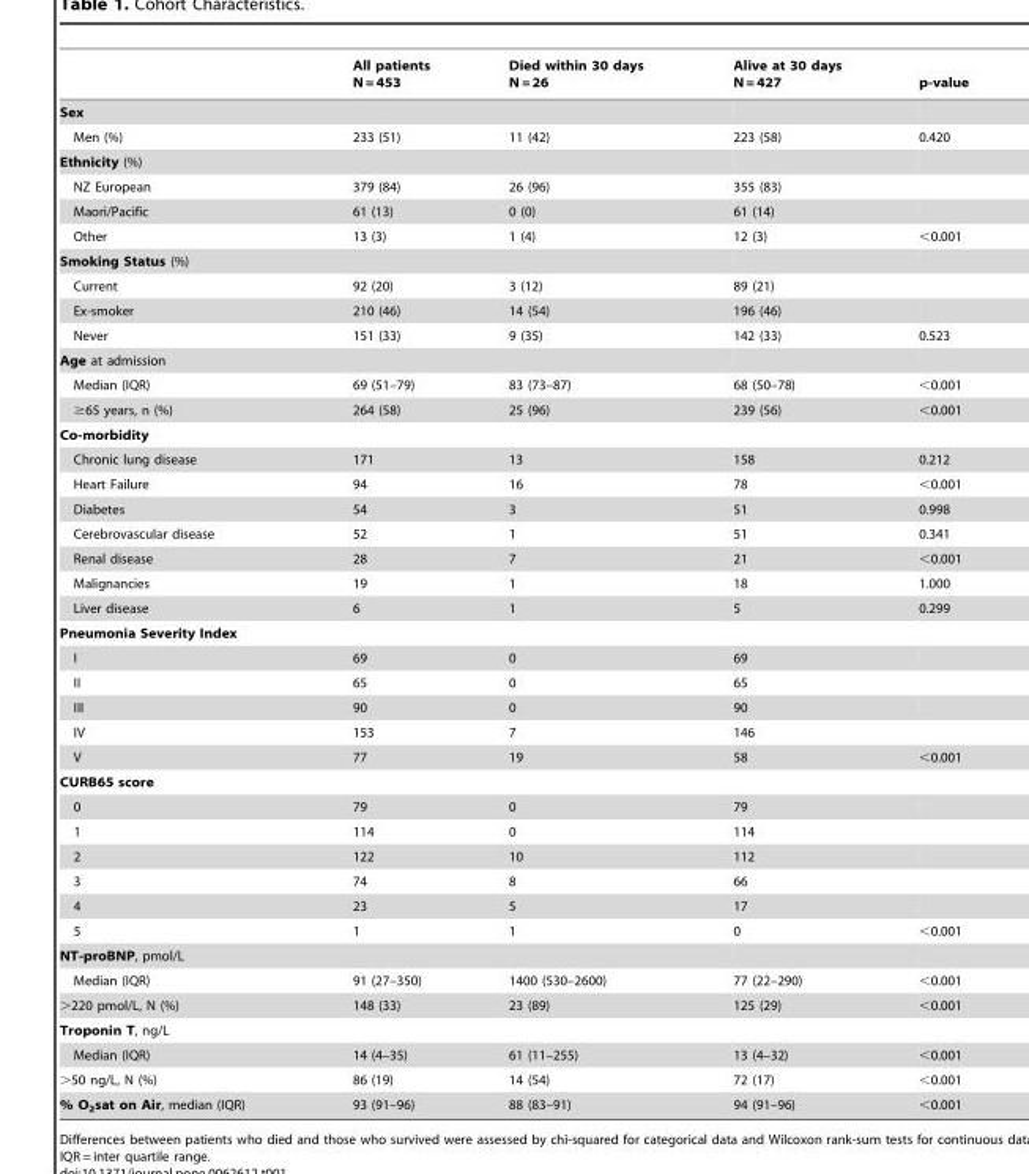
<table><thead><tr><td></td><td>All patients N = 453</td><td>Died within 30 days N = 26</td><td>Alive at 30 days N = 427</td><td>p-value</td></tr></thead><tbody><tr><td colspan="5">Sex</td></tr><tr><td>Men (%)</td><td>233 (51)</td><td>11 (42)</td><td>223 (58)</td><td>0.420</td></tr><tr><td colspan="5">Ethnicity (%)</td></tr><tr><td>NZ European</td><td>379 (84)</td><td>26 (96)</td><td>355 (83)</td><td></td></tr><tr><td>Maori/Pacific</td><td>61 (13)</td><td>0 (0)</td><td>61 (14)</td><td></td></tr><tr><td>Other</td><td>13 (3)</td><td>1 (4)</td><td>12 (3)</td><td>&lt;0.001</td></tr><tr><td colspan="5">Smoking Status (%)</td></tr><tr><td>Current</td><td>92 (20)</td><td>3 (12)</td><td>89 (21)</td><td></td></tr><tr><td>Ex-smoker</td><td>210 (46)</td><td>14 (54)</td><td>196 (46)</td><td></td></tr><tr><td>Never</td><td>151 (33)</td><td>9 (35)</td><td>142 (33)</td><td>0.523</td></tr><tr><td colspan="5">Age at admission</td></tr><tr><td>Median (IQR)</td><td>69 (51–79)</td><td>83 (73–87)</td><td>68 (50–78)</td><td>&lt;0.001</td></tr><tr><td>≥65 years, n (%)</td><td>264 (58)</td><td>25 (96)</td><td>239 (56)</td><td>&lt;0.001</td></tr><tr><td colspan="5">Co-morbidity</td></tr><tr><td>Chronic lung disease</td><td>171</td><td>13</td><td>158</td><td>0.212</td></tr><tr><td>Heart Failure</td><td>94</td><td>16</td><td>78</td><td>&lt;0.001</td></tr><tr><td>Diabetes</td><td>54</td><td>3</td><td>51</td><td>0.998</td></tr><tr><td>Cerebrovascular disease</td><td>52</td><td>1</td><td>51</td><td>0.341</td></tr><tr><td>Renal disease</td><td>28</td><td>7</td><td>21</td><td>&lt;0.001</td></tr><tr><td>Malignancies</td><td>19</td><td>1</td><td>18</td><td>1.000</td></tr><tr><td>Liver disease</td><td>6</td><td>1</td><td>5</td><td>0.299</td></tr><tr><td colspan="5">Pneumonia Severity Index</td></tr><tr><td>I</td><td>69</td><td>0</td><td>69</td><td></td></tr><tr><td>II</td><td>65</td><td>0</td><td>65</td><td></td></tr><tr><td>III</td><td>90</td><td>0</td><td>90</td><td></td></tr><tr><td>IV</td><td>153</td><td>7</td><td>146</td><td></td></tr><tr><td>V</td><td>77</td><td>19</td><td>58</td><td>&lt;0.001</td></tr><tr><td colspan="5">CURB65 score</td></tr><tr><td>0</td><td>79</td><td>0</td><td>79</td><td></td></tr><tr><td>1</td><td>114</td><td>0</td><td>114</td><td></td></tr><tr><td>2</td><td>122</td><td>10</td><td>112</td><td></td></tr><tr><td>3</td><td>74</td><td>8</td><td>66</td><td></td></tr><tr><td>4</td><td>23</td><td>5</td><td>17</td><td></td></tr><tr><td>5</td><td>1</td><td>1</td><td>0</td><td>&lt;0.001</td></tr><tr><td colspan="5">NT-proBNP, pmol/L</td></tr><tr><td>Median (IQR)</td><td>91 (27–350)</td><td>1400 (530–2600)</td><td>77 (22–290)</td><td>&lt;0.001</td></tr><tr><td>&gt;220 pmol/L, N (%)</td><td>148 (33)</td><td>23 (89)</td><td>125 (29)</td><td>&lt;0.001</td></tr><tr><td colspan="5">Troponin T, ng/L</td></tr><tr><td>Median (IQR)</td><td>14 (4–35)</td><td>61 (11–255)</td><td>13 (4–32)</td><td>&lt;0.001</td></tr><tr><td>&gt;50 ng/L, N (%)</td><td>86 (19)</td><td>14 (54)</td><td>72 (17)</td><td>&lt;0.001</td></tr><tr><td>% O<sub>2</sub>sat on Air, median (IQR)</td><td>93 (91–96)</td><td>88 (83–91)</td><td>94 (91–96)</td><td>&lt;0.001</td></tr></tbody></table>